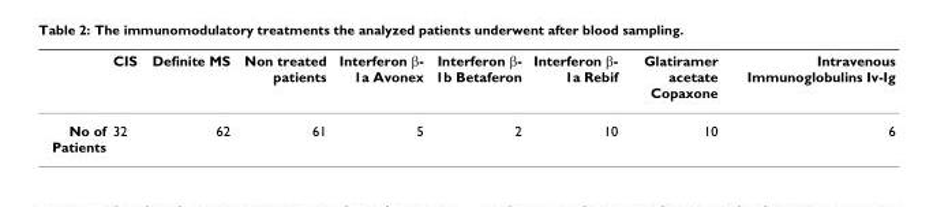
<table><thead><tr><td></td><td>CIS</td><td>Definite MS</td><td>Non treated patients</td><td>Interferon β- 1a Avonex</td><td>Interferon β- 1b Betaferon</td><td>Interferon β- 1a Rebif</td><td>Glatiramer acetate Copaxone</td><td>Intravenous Immunoglobulins Iv-Ig</td></tr></thead><tbody><tr><td>No of Patients</td><td>32</td><td>62</td><td>61</td><td>5</td><td>2</td><td>10</td><td>10</td><td>6</td></tr></tbody></table>